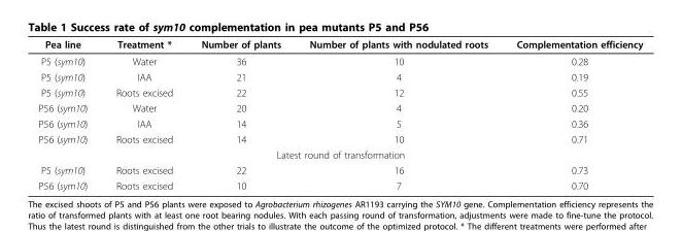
<table><thead><tr><td>Pea line</td><td>Treatment *</td><td>Number of plants</td><td>Number of plants with nodulated roots</td><td>Complementation efficiency</td></tr></thead><tbody><tr><td>P5 (sym10)</td><td>Water</td><td>36</td><td>10</td><td>0.28</td></tr><tr><td>P5 (sym10)</td><td>IAA</td><td>21</td><td>4</td><td>0.19</td></tr><tr><td>P5 (sym10)</td><td>Roots excised</td><td>22</td><td>12</td><td>0.55</td></tr><tr><td>P56 (sym10)</td><td>Water</td><td>20</td><td>4</td><td>0.20</td></tr><tr><td>P56 (sym10)</td><td>IAA</td><td>14</td><td>5</td><td>0.36</td></tr><tr><td>P56 (sym10)</td><td>Roots excised</td><td>14</td><td>10</td><td>0.71</td></tr><tr><td colspan="5">Latest round of transformation</td></tr><tr><td>P5 (sym10)</td><td>Roots excised</td><td>22</td><td>16</td><td>0.73</td></tr><tr><td>P56 (sym10)</td><td>Roots excised</td><td>10</td><td>7</td><td>0.70</td></tr></tbody></table>